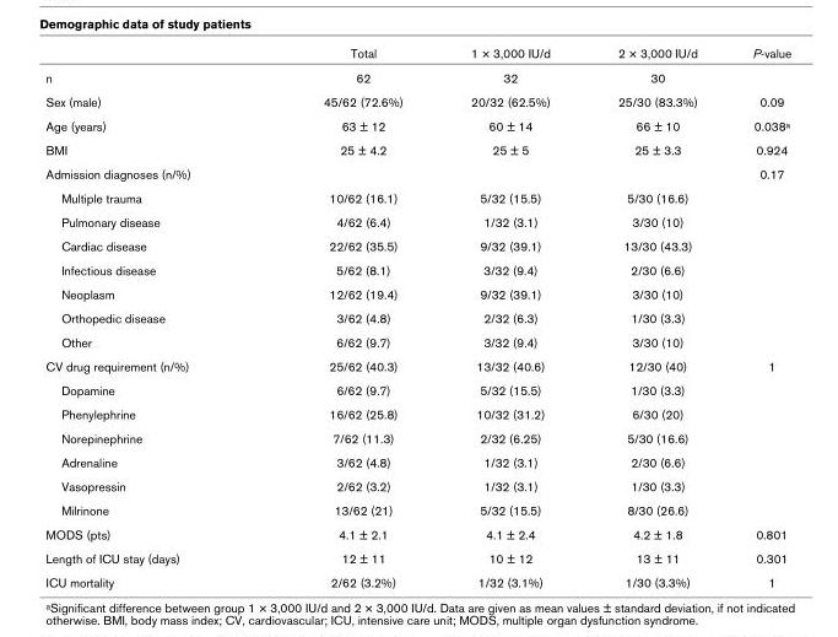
<table><thead><tr><td></td><td>Total</td><td>1 × 3,000 IU/d</td><td>2 × 3,000 IU/d</td><td>P-value</td></tr></thead><tbody><tr><td>n</td><td>62</td><td>32</td><td>30</td><td></td></tr><tr><td>Sex (male)</td><td>45/62 (72.6%)</td><td>20/32 (62.5%)</td><td>25/30 (83.3%)</td><td>0.09</td></tr><tr><td>Age (years)</td><td>63 ± 12</td><td>60 ± 14</td><td>66 ± 10</td><td>0.038a</td></tr><tr><td>BMI</td><td>25 ± 4.2</td><td>25 ± 5</td><td>25 ± 3.3</td><td>0.924</td></tr><tr><td>Admission diagnoses (n/%)</td><td></td><td></td><td></td><td>0.17</td></tr><tr><td>Multiple trauma</td><td>10/62 (16.1)</td><td>5/32 (15.5)</td><td>5/30 (16.6)</td><td></td></tr><tr><td>Pulmonary disease</td><td>4/62 (6.4)</td><td>1/32 (3.1)</td><td>3/30 (10)</td><td></td></tr><tr><td>Cardiac disease</td><td>22/62 (35.5)</td><td>9/32 (39.1)</td><td>13/30 (43.3)</td><td></td></tr><tr><td>Infectious disease</td><td>5/62 (8.1)</td><td>3/32 (9.4)</td><td>2/30 (6.6)</td><td></td></tr><tr><td>Neoplasm</td><td>12/62 (19.4)</td><td>9/32 (39.1)</td><td>3/30 (10)</td><td></td></tr><tr><td>Orthopedic disease</td><td>3/62 (4.8)</td><td>2/32 (6.3)</td><td>1/30 (3.3)</td><td></td></tr><tr><td>Other</td><td>6/62 (9.7)</td><td>3/32 (9.4)</td><td>3/30 (10)</td><td></td></tr><tr><td>CV drug requirement (n/%)</td><td>25/62 (40.3)</td><td>13/32 (40.6)</td><td>12/30 (40)</td><td>1</td></tr><tr><td>Dopamine</td><td>6/62 (9.7)</td><td>5/32 (15.5)</td><td>1/30 (3.3)</td><td></td></tr><tr><td>Phenylephrine</td><td>16/62 (25.8)</td><td>10/32 (31.2)</td><td>6/30 (20)</td><td></td></tr><tr><td>Norepinephrine</td><td>7/62 (11.3)</td><td>2/32 (6.25)</td><td>5/30 (16.6)</td><td></td></tr><tr><td>Adrenaline</td><td>3/62 (4.8)</td><td>1/32 (3.1)</td><td>2/30 (6.6)</td><td></td></tr><tr><td>Vasopressin</td><td>2/62 (3.2)</td><td>1/32 (3.1)</td><td>1/30 (3.3)</td><td></td></tr><tr><td>Milrinone</td><td>13/62 (21)</td><td>5/32 (15.5)</td><td>8/30 (26.6)</td><td></td></tr><tr><td>MODS (pts)</td><td>4.1 ± 2.1</td><td>4.1 ± 2.4</td><td>4.2 ± 1.8</td><td>0.801</td></tr><tr><td>Length of ICU stay (days)</td><td>12 ± 11</td><td>10 ± 12</td><td>13 ± 11</td><td>0.301</td></tr><tr><td>ICU mortality</td><td>2/62 (3.2%)</td><td>1/32 (3.1%)</td><td>1/30 (3.3%)</td><td>1</td></tr></tbody></table>